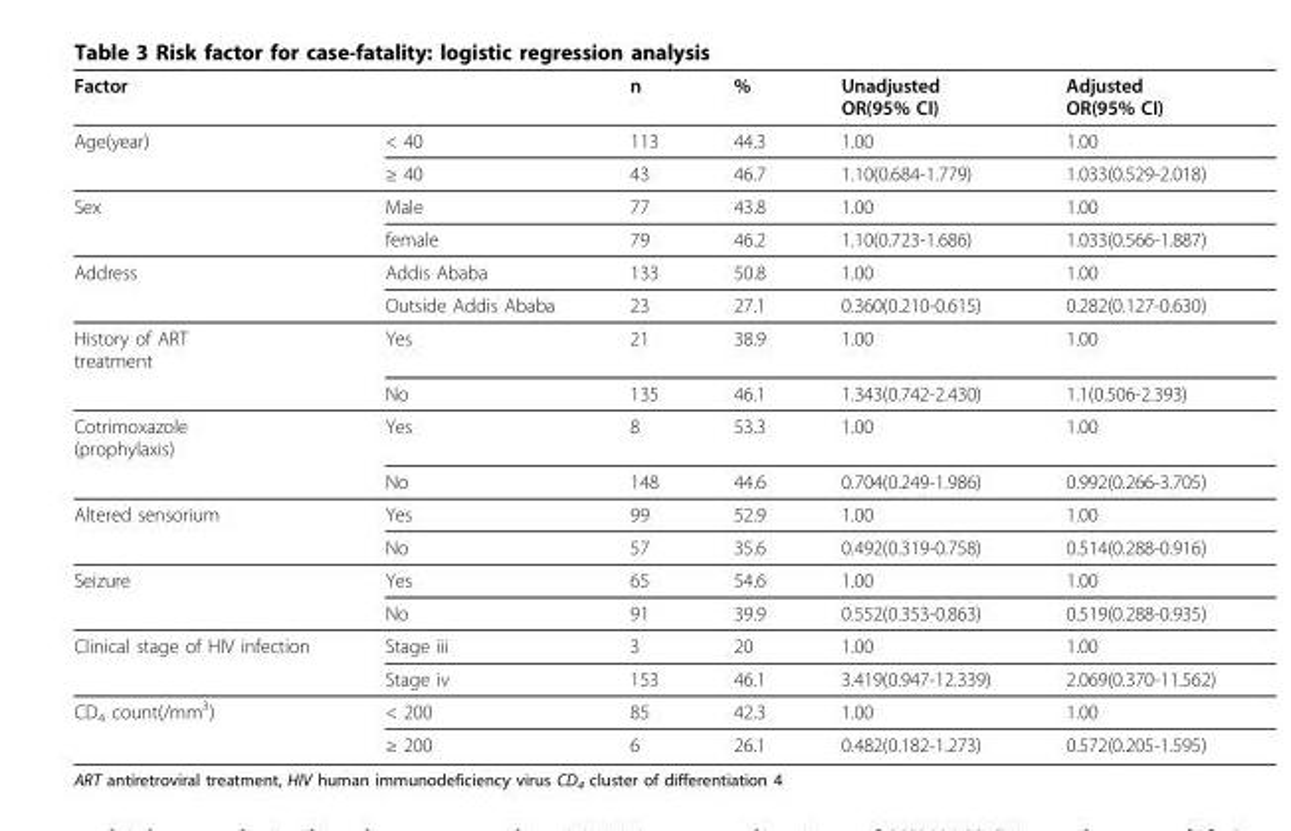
<table><thead><tr><td colspan="2">Factor</td><td rowspan="2">n 113</td><td rowspan="2">% 44.3</td><td rowspan="2">Unadjusted OR(95% CI) 1.00</td><td rowspan="2">Adjusted OR(95% CI) 1.00</td></tr><tr><td>Age(year)</td><td>&lt; 40</td></tr></thead><tbody><tr><td></td><td>≥ 40</td><td>43</td><td>46.7</td><td>1.10(0.684-1.779)</td><td>1.033(0.529-2.018)</td></tr><tr><td rowspan="2">Sex</td><td>Male</td><td>77</td><td>43.8</td><td>1.00</td><td>1.00</td></tr><tr><td>female</td><td>79</td><td>46.2</td><td>1.10(0.723-1.686)</td><td>1.033(0.566-1.887)</td></tr><tr><td rowspan="2">Address</td><td>Addis Ababa</td><td>133</td><td>50.8</td><td>1.00</td><td>1.00</td></tr><tr><td>Outside Addis Ababa</td><td>23</td><td>27.1</td><td>0.360(0.210-0.615)</td><td>0.282(0.127-0.630)</td></tr><tr><td rowspan="2">History of ART treatment</td><td>Yes</td><td>21</td><td>38.9</td><td>1.00</td><td>1.00</td></tr><tr><td>No</td><td>135</td><td>46.1</td><td>1.343(0.742-2.430)</td><td>1.1(0.506-2.393)</td></tr><tr><td rowspan="2">Cotrimoxazole (prophylaxis)</td><td>Yes</td><td>8</td><td>53.3</td><td>1.00</td><td>1.00</td></tr><tr><td>No</td><td>148</td><td>44.6</td><td>0.704(0.249-1.986)</td><td>0.992(0.266-3.705)</td></tr><tr><td rowspan="2">Altered sensorium</td><td>Yes</td><td>99</td><td>52.9</td><td>1.00</td><td>1.00</td></tr><tr><td>No</td><td>57</td><td>35.6</td><td>0.492(0.319-0.758)</td><td>0.514(0.288-0.916)</td></tr><tr><td rowspan="2">Seizure</td><td>Yes</td><td>65</td><td>54.6</td><td>1.00</td><td>1.00</td></tr><tr><td>No</td><td>91</td><td>39.9</td><td>0.552(0.353-0.863)</td><td>0.519(0.288-0.935)</td></tr><tr><td rowspan="2">Clinical stage of HIV infection</td><td>Stage iii</td><td>3</td><td>20</td><td>1.00</td><td>1.00</td></tr><tr><td>Stage iv</td><td>153</td><td>46.1</td><td>3.419(0.947-12.339)</td><td>2.069(0.370-11.562)</td></tr><tr><td rowspan="2">CD<sub>4</sub> count(/mm<sup>3</sup>)</td><td>&lt; 200</td><td>85</td><td>42.3</td><td>1.00</td><td>1.00</td></tr><tr><td>≥ 200</td><td>6</td><td>26.1</td><td>0.482(0.182-1.273)</td><td>0.572(0.205-1.595)</td></tr></tbody></table>